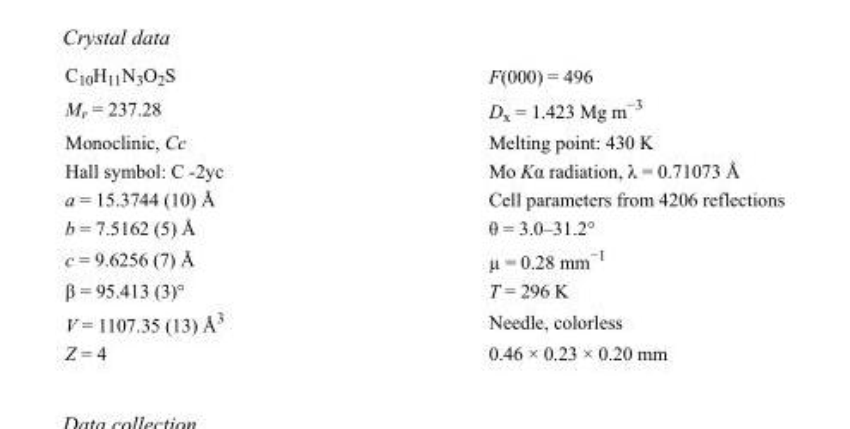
<table><tbody><tr><td>C<sub>10</sub>H<sub>11</sub>N<sub>3</sub>O<sub>2</sub>S</td><td>F(000) = 496</td></tr><tr><td>M<sub>r</sub> = 237.28</td><td>D<sub>x</sub> = 1.423 Mg m<sup>−3</sup></td></tr><tr><td>Monoclinic, Cc</td><td>Melting point: 430 K</td></tr><tr><td>Hall symbol: C -2yc</td><td>Mo Kα radiation, λ = 0.71073 Å</td></tr><tr><td>a = 15.3744 (10) Å</td><td>Cell parameters from 4206 reflections</td></tr><tr><td>b = 7.5162 (5) Å</td><td>θ = 3.0–31.2°</td></tr><tr><td>c = 9.6256 (7) Å</td><td>µ = 0.28 mm<sup>−1</sup></td></tr><tr><td>β = 95.413 (3)°</td><td>T = 296 K</td></tr><tr><td>V = 1107.35 (13) Å<sup>3</sup></td><td>Needle, colorless</td></tr><tr><td>Z = 4</td><td>0.46 × 0.23 × 0.20 mm</td></tr></tbody></table>